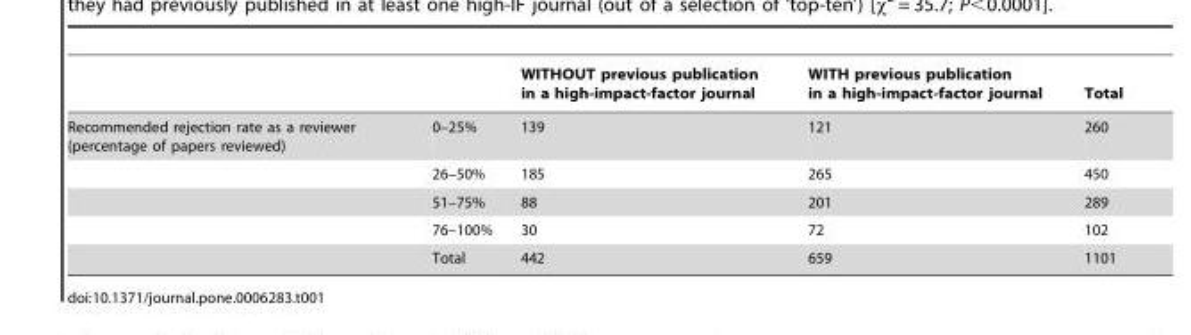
<table><thead><tr><td></td><td></td><td>WITHOUT previous publication in a high-impact-factor journal</td><td>WITH previous publication in a high-impact-factor journal</td><td>Total</td></tr></thead><tbody><tr><td rowspan="5">Recommended rejection rate as a reviewer (percentage of papers reviewed)</td><td>0–25%</td><td>139</td><td>121</td><td>260</td></tr><tr><td>26–50%</td><td>185</td><td>265</td><td>450</td></tr><tr><td>51–75%</td><td>88</td><td>201</td><td>289</td></tr><tr><td>76–100%</td><td>30</td><td>72</td><td>102</td></tr><tr><td>Total</td><td>442</td><td>659</td><td>1101</td></tr></tbody></table>